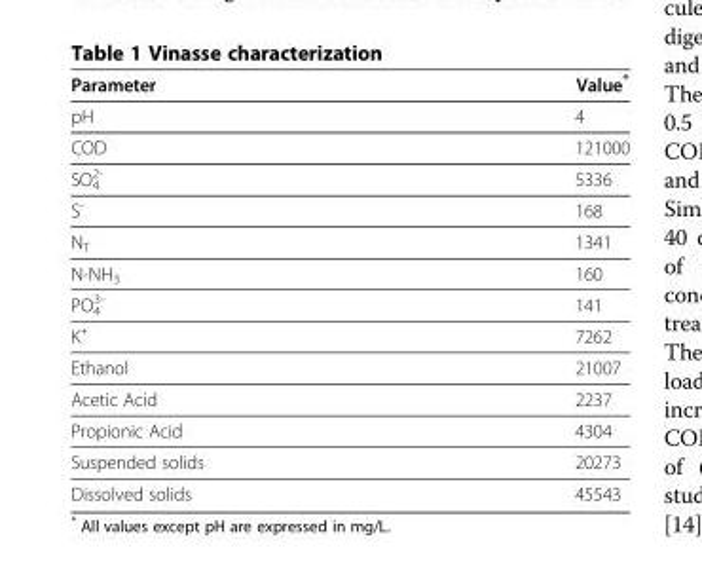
<table><thead><tr><td>Parameter</td><td>Value*</td></tr></thead><tbody><tr><td>pH</td><td>4</td></tr><tr><td>COD</td><td>121000</td></tr><tr><td>SO<sub>4</sub> <sup>2-</sup></td><td>5336</td></tr><tr><td>S<sup>-</sup></td><td>168</td></tr><tr><td>N<sub>T</sub></td><td>1341</td></tr><tr><td>N-NH<sub>3</sub></td><td>160</td></tr><tr><td>PO<sub>4</sub> <sup>3-</sup></td><td>141</td></tr><tr><td>K<sup>+</sup></td><td>7262</td></tr><tr><td>Ethanol</td><td>21007</td></tr><tr><td>Acetic Acid</td><td>2237</td></tr><tr><td>Propionic Acid</td><td>4304</td></tr><tr><td>Suspended solids</td><td>20273</td></tr><tr><td>Dissolved solids</td><td>45543</td></tr></tbody></table>